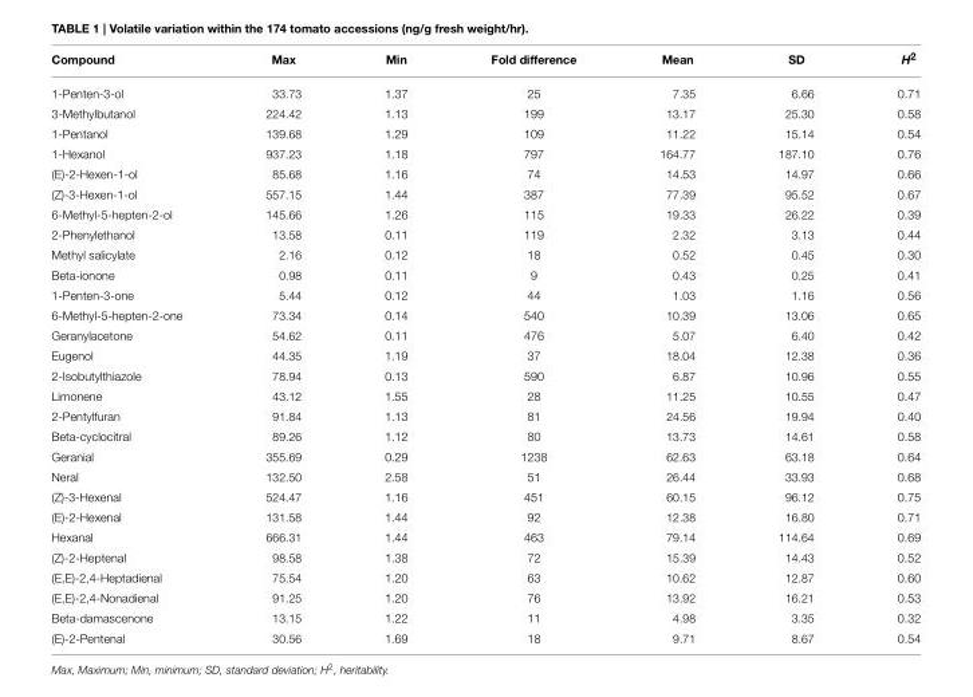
<table><thead><tr><td>Compound</td><td>Max</td><td>Min</td><td>Fold difference</td><td>Mean</td><td>SD</td><td>H<sup>2</sup></td></tr></thead><tbody><tr><td>1-Penten-3-ol</td><td>33.73</td><td>1.37</td><td>25</td><td>7.35</td><td>6.66</td><td>0.71</td></tr><tr><td>3-Methylbutanol</td><td>224.42</td><td>1.13</td><td>199</td><td>13.17</td><td>25.30</td><td>0.58</td></tr><tr><td>1-Pentanol</td><td>139.68</td><td>1.29</td><td>109</td><td>11.22</td><td>15.14</td><td>0.54</td></tr><tr><td>1-Hexanol</td><td>937.23</td><td>1.18</td><td>797</td><td>164.77</td><td>187.10</td><td>0.76</td></tr><tr><td>(E)-2-Hexen-1-ol</td><td>85.68</td><td>1.16</td><td>74</td><td>14.53</td><td>14.97</td><td>0.66</td></tr><tr><td>(Z)-3-Hexen-1-ol</td><td>557.15</td><td>1.44</td><td>387</td><td>77.39</td><td>95.52</td><td>0.67</td></tr><tr><td>6-Methyl-5-hepten-2-ol</td><td>145.66</td><td>1.26</td><td>115</td><td>19.33</td><td>26.22</td><td>0.39</td></tr><tr><td>2-Phenylethanol</td><td>13.58</td><td>0.11</td><td>119</td><td>2.32</td><td>3.13</td><td>0.44</td></tr><tr><td>Methyl salicylate</td><td>2.16</td><td>0.12</td><td>18</td><td>0.52</td><td>0.45</td><td>0.30</td></tr><tr><td>Beta-ionone</td><td>0.98</td><td>0.11</td><td>9</td><td>0.43</td><td>0.25</td><td>0.41</td></tr><tr><td>1-Penten-3-one</td><td>5.44</td><td>0.12</td><td>44</td><td>1.03</td><td>1.16</td><td>0.56</td></tr><tr><td>6-Methyl-5-hepten-2-one</td><td>73.34</td><td>0.14</td><td>540</td><td>10.39</td><td>13.06</td><td>0.65</td></tr><tr><td>Geranylacetone</td><td>54.62</td><td>0.11</td><td>476</td><td>5.07</td><td>6.40</td><td>0.42</td></tr><tr><td>Eugenol</td><td>44.35</td><td>1.19</td><td>37</td><td>18.04</td><td>12.38</td><td>0.36</td></tr><tr><td>2-Isobutylthiazole</td><td>78.94</td><td>0.13</td><td>590</td><td>6.87</td><td>10.96</td><td>0.55</td></tr><tr><td>Limonene</td><td>43.12</td><td>1.55</td><td>28</td><td>11.25</td><td>10.55</td><td>0.47</td></tr><tr><td>2-Pentylfuran</td><td>91.84</td><td>1.13</td><td>81</td><td>24.56</td><td>19.94</td><td>0.40</td></tr><tr><td>Beta-cyclocitral</td><td>89.26</td><td>1.12</td><td>80</td><td>13.73</td><td>14.61</td><td>0.58</td></tr><tr><td>Geranial</td><td>355.69</td><td>0.29</td><td>1238</td><td>62.63</td><td>63.18</td><td>0.64</td></tr><tr><td>Neral</td><td>132.50</td><td>2.58</td><td>51</td><td>26.44</td><td>33.93</td><td>0.68</td></tr><tr><td>(Z)-3-Hexenal</td><td>524.47</td><td>1.16</td><td>451</td><td>60.15</td><td>96.12</td><td>0.75</td></tr><tr><td>(E)-2-Hexenal</td><td>131.58</td><td>1.44</td><td>92</td><td>12.38</td><td>16.80</td><td>0.71</td></tr><tr><td>Hexanal</td><td>666.31</td><td>1.44</td><td>463</td><td>79.14</td><td>114.64</td><td>0.69</td></tr><tr><td>(Z)-2-Heptenal</td><td>98.58</td><td>1.38</td><td>72</td><td>15.39</td><td>14.43</td><td>0.52</td></tr><tr><td>(E,E)-2,4-Heptadienal</td><td>75.54</td><td>1.20</td><td>63</td><td>10.62</td><td>12.87</td><td>0.60</td></tr><tr><td>(E,E)-2,4-Nonadienal</td><td>91.25</td><td>1.20</td><td>76</td><td>13.92</td><td>16.21</td><td>0.53</td></tr><tr><td>Beta-damascenone</td><td>13.15</td><td>1.22</td><td>11</td><td>4.98</td><td>3.35</td><td>0.32</td></tr><tr><td>(E)-2-Pentenal</td><td>30.56</td><td>1.69</td><td>18</td><td>9.71</td><td>8.67</td><td>0.54</td></tr></tbody></table>